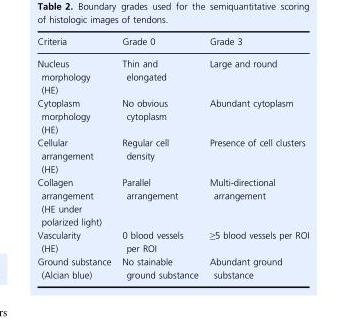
<table><thead><tr><td>Criteria</td><td>Grade 0</td><td>Grade 3</td></tr></thead><tbody><tr><td>Nucleus morphology (HE)</td><td>Thin and elongated</td><td>Large and round</td></tr><tr><td>Cytoplasm morphology (HE)</td><td>No obvious cytoplasm</td><td>Abundant cytoplasm</td></tr><tr><td>Cellular arrangement (HE)</td><td>Regular cell density</td><td>Presence of cell clusters</td></tr><tr><td>Collagen arrangement (HE under polarized light)</td><td>Parallel arrangement</td><td>Multi-directional arrangement</td></tr><tr><td>Vascularity (HE)</td><td>0 blood vessels per ROI</td><td>≥5 blood vessels per ROI</td></tr><tr><td>Ground substance (Alcian blue)</td><td>No stainable ground substance</td><td>Abundant ground substance</td></tr></tbody></table>